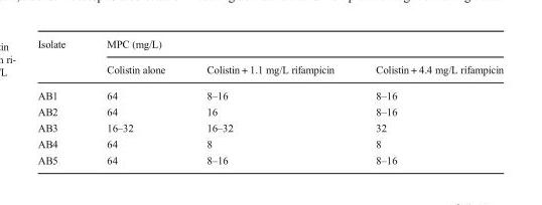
<table><thead><tr><td rowspan="2">Isolate</td><td colspan="3">MPC (mg/L)</td></tr><tr><td>Colistin alone</td><td>Colistin + 1.1 mg/L rifampicin</td><td>Colistin + 4.4 mg/L rifampicin</td></tr></thead><tbody><tr><td>AB1</td><td>64</td><td>8–16</td><td>8–16</td></tr><tr><td>AB2</td><td>64</td><td>16</td><td>8–16</td></tr><tr><td>AB3</td><td>16–32</td><td>16–32</td><td>32</td></tr><tr><td>AB4</td><td>64</td><td>8</td><td>8</td></tr><tr><td>AB5</td><td>64</td><td>8–16</td><td>8–16</td></tr></tbody></table>